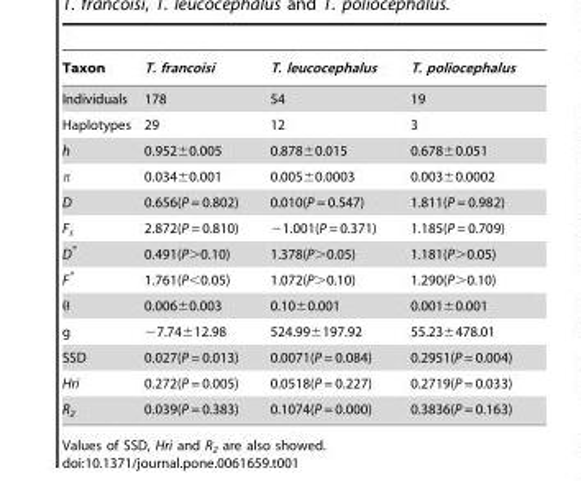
<table><thead><tr><td>Taxon</td><td>T. francoisi</td><td>T. leucocephalus</td><td>T. poliocephalus</td></tr></thead><tbody><tr><td>Individuals</td><td>178</td><td>54</td><td>19</td></tr><tr><td>Haplotypes</td><td>29</td><td>12</td><td>3</td></tr><tr><td>h</td><td>0.952±0.005</td><td>0.878±0.015</td><td>0.678±0.051</td></tr><tr><td>π</td><td>0.034±0.001</td><td>0.005±0.0003</td><td>0.003±0.0002</td></tr><tr><td>D</td><td>0.656(P = 0.802)</td><td>0.010(P = 0.547)</td><td>1.811(P = 0.982)</td></tr><tr><td>F<sub>s</sub></td><td>2.872(P = 0.810)</td><td>−1.001(P = 0.371)</td><td>1.185(P = 0.709)</td></tr><tr><td>D*</td><td>0.491(P&gt;0.10)</td><td>1.378(P&gt;0.05)</td><td>1.181(P&gt;0.05)</td></tr><tr><td>F*</td><td>1.761(P&lt;0.05)</td><td>1.072(P&gt;0.10)</td><td>1.290(P&gt;0.10)</td></tr><tr><td>θ</td><td>0.006±0.003</td><td>0.10±0.001</td><td>0.001±0.001</td></tr><tr><td>g</td><td>−7.74±12.98</td><td>524.99±197.92</td><td>55.23±478.01</td></tr><tr><td>SSD</td><td>0.027(P = 0.013)</td><td>0.0071(P = 0.084)</td><td>0.2951(P = 0.004)</td></tr><tr><td>Hri</td><td>0.272(P = 0.005)</td><td>0.0518(P = 0.227)</td><td>0.2719(P = 0.033)</td></tr><tr><td>R<sub>2</sub></td><td>0.039(P = 0.383)</td><td>0.1074(P = 0.000)</td><td>0.3836(P = 0.163)</td></tr></tbody></table>